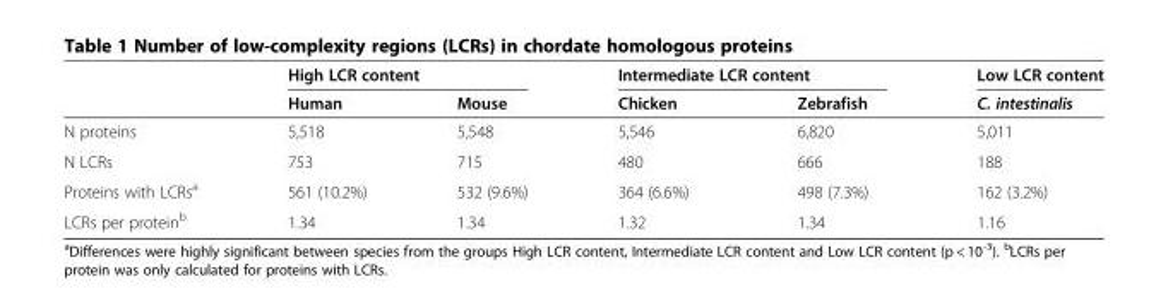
<table><thead><tr><td rowspan="2"></td><td colspan="2">High LCR content</td><td colspan="2">Intermediate LCR content</td><td rowspan="2">Low LCR content C. intestinalis</td></tr><tr><td>Human</td><td>Mouse</td><td>Chicken</td><td>Zebrafish</td></tr></thead><tbody><tr><td>N proteins</td><td>5,518</td><td>5,548</td><td>5,546</td><td>6,820</td><td>5,011</td></tr><tr><td>N LCRs</td><td>753</td><td>715</td><td>480</td><td>666</td><td>188</td></tr><tr><td>Proteins with LCRs<sup>a</sup></td><td>561 (10.2%)</td><td>532 (9.6%)</td><td>364 (6.6%)</td><td>498 (7.3%)</td><td>162 (3.2%)</td></tr><tr><td>LCRs per protein<sup>b</sup></td><td>1.34</td><td>1.34</td><td>1.32</td><td>1.34</td><td>1.16</td></tr></tbody></table>